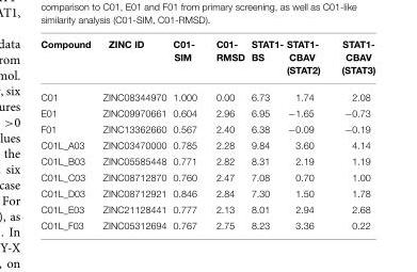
<table><thead><tr><td>Compound</td><td>ZINC ID</td><td>C01- SIM</td><td>C01- RMSD</td><td>STAT1- BS</td><td>STAT1- CBAV (STAT2)</td><td>STAT1- CBAV (STAT3)</td></tr></thead><tbody><tr><td>C01</td><td>ZINC08344970</td><td>1.000</td><td>0.00</td><td>6.73</td><td>1.74</td><td>2.08</td></tr><tr><td>E01</td><td>ZINC09970661</td><td>0.604</td><td>2.96</td><td>6.95</td><td>−1.65</td><td>−0.73</td></tr><tr><td>F01</td><td>ZINC13362660</td><td>0.567</td><td>2.40</td><td>6.38</td><td>−0.09</td><td>−0.19</td></tr><tr><td>C01L_A03</td><td>ZINC03470000</td><td>0.785</td><td>2.28</td><td>9.84</td><td>3.60</td><td>4.14</td></tr><tr><td>C01L_B03</td><td>ZINC05585448</td><td>0.771</td><td>2.82</td><td>8.31</td><td>2.19</td><td>1.19</td></tr><tr><td>C01L_C03</td><td>ZINC08712870</td><td>0.760</td><td>2.47</td><td>7.08</td><td>0.70</td><td>1.00</td></tr><tr><td>C01L_D03</td><td>ZINC08712921</td><td>0.846</td><td>2.84</td><td>7.30</td><td>1.50</td><td>1.78</td></tr><tr><td>C01L_E03</td><td>ZINC21128441</td><td>0.777</td><td>2.13</td><td>8.01</td><td>2.94</td><td>2.68</td></tr><tr><td>C01L_F03</td><td>ZINC05312694</td><td>0.767</td><td>2.75</td><td>8.23</td><td>3.36</td><td>0.22</td></tr></tbody></table>